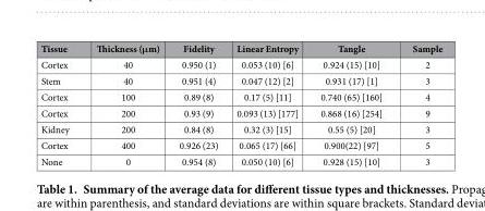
<table><thead><tr><td>Tissue</td><td>Thickness (μm)</td><td>Fidelity</td><td>Linear Entropy</td><td>Tangle</td><td>Sample</td></tr></thead><tbody><tr><td>Cortex</td><td>40</td><td>0.950 (1)</td><td>0.053 (10) [6]</td><td>0.924 (15) [10]</td><td>2</td></tr><tr><td>Stem</td><td>40</td><td>0.951 (4)</td><td>0.047 (12) [2]</td><td>0.931 (17) [1]</td><td>3</td></tr><tr><td>Cortex</td><td>100</td><td>0.89 (8)</td><td>0.17 (5) [11]</td><td>0.740 (65) [160]</td><td>4</td></tr><tr><td>Cortex</td><td>200</td><td>0.93 (9)</td><td>0.093 (13) [177]</td><td>0.868 (16) [254]</td><td>9</td></tr><tr><td>Kidney</td><td>200</td><td>0.84 (8)</td><td>0.32 (3) [15]</td><td>0.55 (5) [20]</td><td>3</td></tr><tr><td>Cortex</td><td>400</td><td>0.926 (23)</td><td>0.065 (17) [66]</td><td>0.900(22) [97]</td><td>5</td></tr><tr><td>None</td><td>0</td><td>0.954 (8)</td><td>0.050 (10) [6]</td><td>0.928 (15) [10]</td><td>3</td></tr></tbody></table>